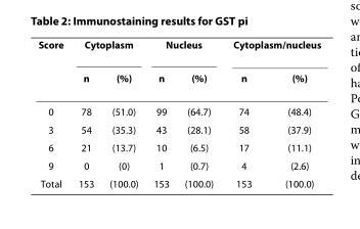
<table><thead><tr><td rowspan="2">Score</td><td colspan="2">Cytoplasm</td><td colspan="2">Nucleus</td><td colspan="2">Cytoplasm/nucleus</td></tr><tr><td>n</td><td>(%)</td><td>n</td><td>(%)</td><td>n</td><td>(%)</td></tr></thead><tbody><tr><td>0</td><td>78</td><td>(51.0)</td><td>99</td><td>(64.7)</td><td>74</td><td>(48.4)</td></tr><tr><td>3</td><td>54</td><td>(35.3)</td><td>43</td><td>(28.1)</td><td>58</td><td>(37.9)</td></tr><tr><td>6</td><td>21</td><td>(13.7)</td><td>10</td><td>(6.5)</td><td>17</td><td>(11.1)</td></tr><tr><td>9</td><td>0</td><td>(0)</td><td>1</td><td>(0.7)</td><td>4</td><td>(2.6)</td></tr><tr><td>Total</td><td>153</td><td>(100.0)</td><td>153</td><td>(100.0)</td><td>153</td><td>(100.0)</td></tr></tbody></table>